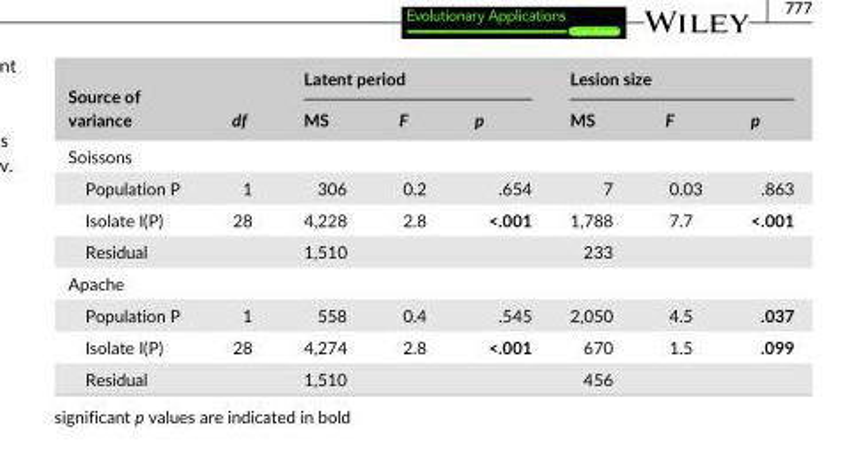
<table><thead><tr><td rowspan="2">Source of variance</td><td rowspan="2">df</td><td colspan="3">Latent period</td><td colspan="3">Lesion size</td></tr><tr><td>MS</td><td>F</td><td>p</td><td>MS</td><td>F</td><td>p</td></tr></thead><tbody><tr><td colspan="8">Soissons</td></tr><tr><td>Population P</td><td>1</td><td>306</td><td>0.2</td><td>.654</td><td>7</td><td>0.03</td><td>.863</td></tr><tr><td>Isolate I(P)</td><td>28</td><td>4,228</td><td>2.8</td><td>&lt;.001</td><td>1,788</td><td>7.7</td><td>&lt;.001</td></tr><tr><td>Residual</td><td></td><td>1,510</td><td></td><td></td><td>233</td><td></td><td></td></tr><tr><td colspan="8">Apache</td></tr><tr><td>Population P</td><td>1</td><td>558</td><td>0.4</td><td>.545</td><td>2,050</td><td>4.5</td><td>.037</td></tr><tr><td>Isolate I(P)</td><td>28</td><td>4,274</td><td>2.8</td><td>&lt;.001</td><td>670</td><td>1.5</td><td>.099</td></tr><tr><td>Residual</td><td></td><td>1,510</td><td></td><td></td><td>456</td><td></td><td></td></tr></tbody></table>